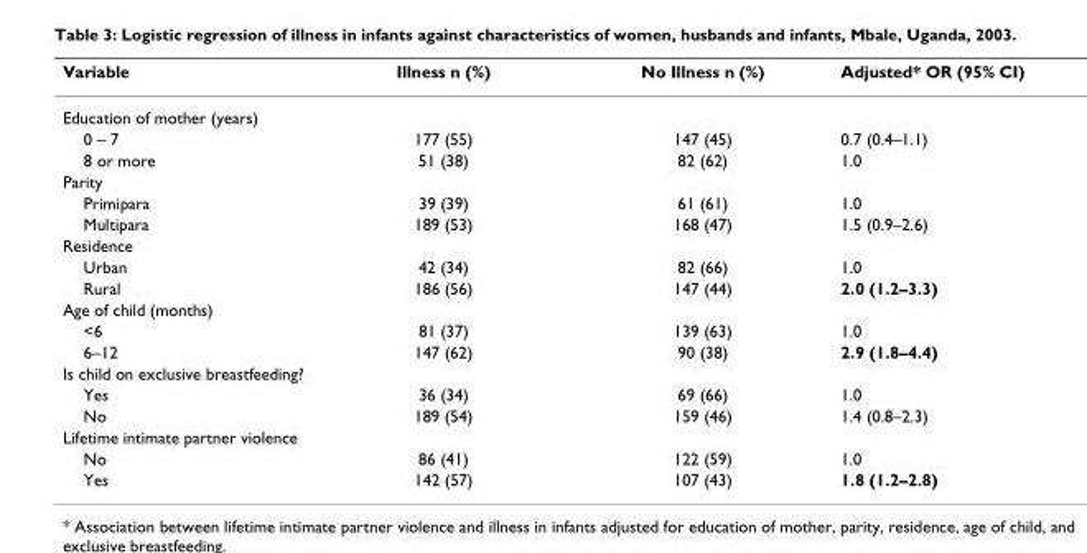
<table><thead><tr><td>Variable</td><td>Illness n (%)</td><td>No Illness n (%)</td><td>Adjusted* OR (95% CI)</td></tr></thead><tbody><tr><td colspan="4">Education of mother (years)</td></tr><tr><td>0 – 7</td><td>177 (55)</td><td>147 (45)</td><td>0.7 (0.4–1.1)</td></tr><tr><td>8 or more</td><td>51 (38)</td><td>82 (62)</td><td>1.0</td></tr><tr><td colspan="4">Parity</td></tr><tr><td>Primipara</td><td>39 (39)</td><td>61 (61)</td><td>1.0</td></tr><tr><td>Multipara</td><td>189 (53)</td><td>168 (47)</td><td>1.5 (0.9–2.6)</td></tr><tr><td colspan="4">Residence</td></tr><tr><td>Urban</td><td>42 (34)</td><td>82 (66)</td><td>1.0</td></tr><tr><td>Rural</td><td>186 (56)</td><td>147 (44)</td><td>2.0 (1.2–3.3)</td></tr><tr><td colspan="4">Age of child (months)</td></tr><tr><td>&lt;6</td><td>81 (37)</td><td>139 (63)</td><td>1.0</td></tr><tr><td>6–12</td><td>147 (62)</td><td>90 (38)</td><td>2.9 (1.8–4.4)</td></tr><tr><td colspan="4">Is child on exclusive breastfeeding?</td></tr><tr><td>Yes</td><td>36 (34)</td><td>69 (66)</td><td>1.0</td></tr><tr><td>No</td><td>189 (54)</td><td>159 (46)</td><td>1.4 (0.8–2.3)</td></tr><tr><td colspan="4">Lifetime intimate partner violence</td></tr><tr><td>No</td><td>86 (41)</td><td>122 (59)</td><td>1.0</td></tr><tr><td>Yes</td><td>142 (57)</td><td>107 (43)</td><td>1.8 (1.2–2.8)</td></tr></tbody></table>